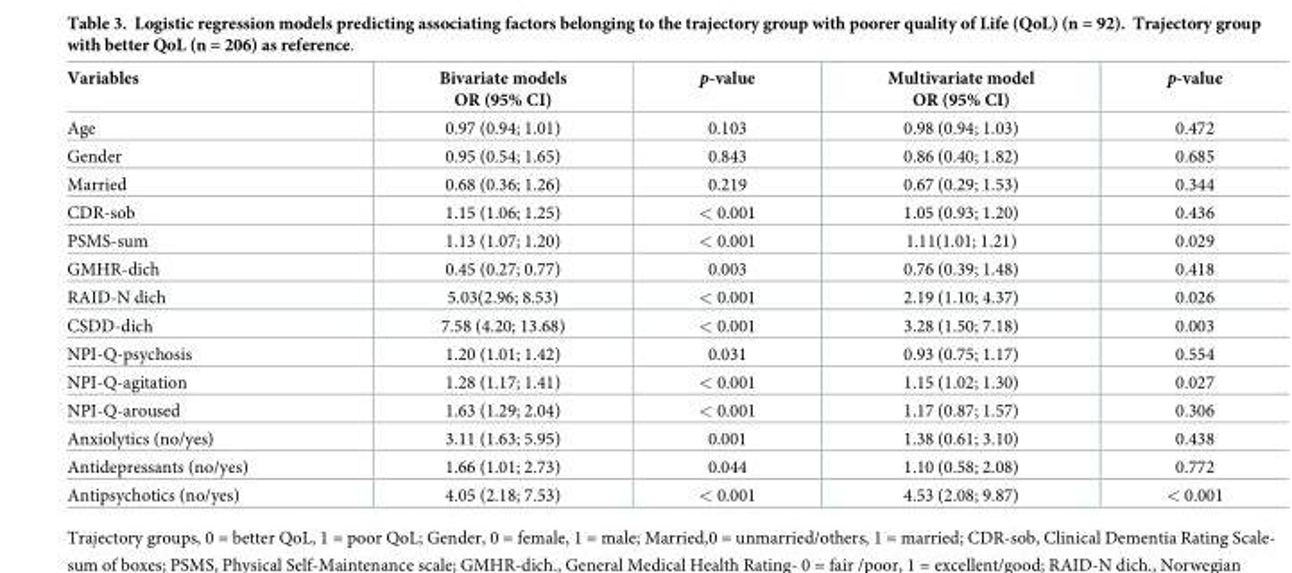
<table><thead><tr><td>Variables</td><td>Bivariate models OR (95% CI)</td><td>p-value</td><td>Multivariate model OR (95% CI)</td><td>p-value</td></tr></thead><tbody><tr><td>Age</td><td>0.97 (0.94; 1.01)</td><td>0.103</td><td>0.98 (0.94; 1.03)</td><td>0.472</td></tr><tr><td>Gender</td><td>0.95 (0.54; 1.65)</td><td>0.843</td><td>0.86 (0.40; 1.82)</td><td>0.685</td></tr><tr><td>Married</td><td>0.68 (0.36; 1.26)</td><td>0.219</td><td>0.67 (0.29; 1.53)</td><td>0.344</td></tr><tr><td>CDR-sob</td><td>1.15 (1.06; 1.25)</td><td>&lt; 0.001</td><td>1.05 (0.93; 1.20)</td><td>0.436</td></tr><tr><td>PSMS-sum</td><td>1.13 (1.07; 1.20)</td><td>&lt; 0.001</td><td>1.11(1.01; 1.21)</td><td>0.029</td></tr><tr><td>GMHR-dich</td><td>0.45 (0.27; 0.77)</td><td>0.003</td><td>0.76 (0.39; 1.48)</td><td>0.418</td></tr><tr><td>RAID-N dich</td><td>5.03(2.96; 8.53)</td><td>&lt; 0.001</td><td>2.19 (1.10; 4.37)</td><td>0.026</td></tr><tr><td>CSDD-dich</td><td>7.58 (4.20; 13.68)</td><td>&lt; 0.001</td><td>3.28 (1.50; 7.18)</td><td>0.003</td></tr><tr><td>NPI-Q-psychosis</td><td>1.20 (1.01; 1.42)</td><td>0.031</td><td>0.93 (0.75; 1.17)</td><td>0.554</td></tr><tr><td>NPI-Q-agitation</td><td>1.28 (1.17; 1.41)</td><td>&lt; 0.001</td><td>1.15 (1.02; 1.30)</td><td>0.027</td></tr><tr><td>NPI-Q-aroused</td><td>1.63 (1.29; 2.04)</td><td>&lt; 0.001</td><td>1.17 (0.87; 1.57)</td><td>0.306</td></tr><tr><td>Anxiolytics (no/yes)</td><td>3.11 (1.63; 5.95)</td><td>0.001</td><td>1.38 (0.61; 3.10)</td><td>0.438</td></tr><tr><td>Antidepressants (no/yes)</td><td>1.66 (1.01; 2.73)</td><td>0.044</td><td>1.10 (0.58; 2.08)</td><td>0.772</td></tr><tr><td>Antipsychotics (no/yes)</td><td>4.05 (2.18; 7.53)</td><td>&lt; 0.001</td><td>4.53 (2.08; 9.87)</td><td>&lt; 0.001</td></tr></tbody></table>